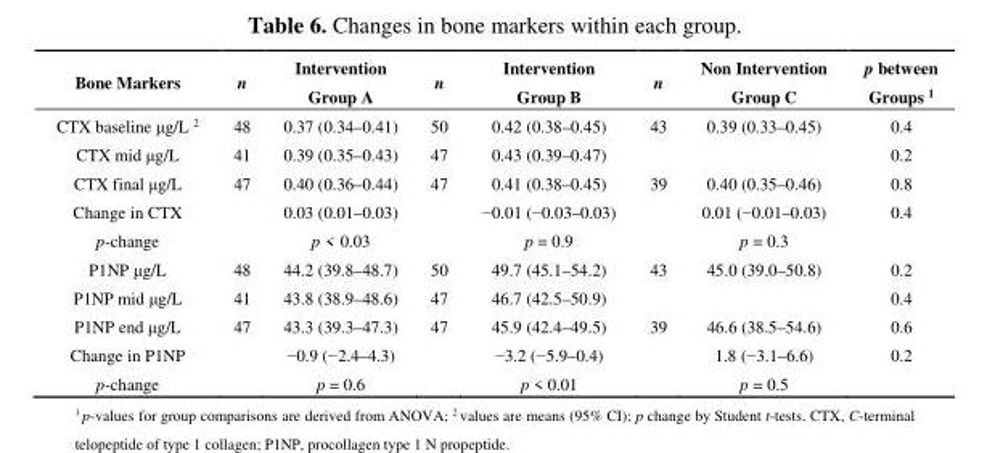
<table><thead><tr><td>Bone Markers</td><td>n</td><td>Intervention Group A</td><td>n</td><td>Intervention Group B</td><td>n</td><td>Non Intervention Group C</td><td>p between Groups <sup>1</sup></td></tr></thead><tbody><tr><td>CTX baseline μg/L <sup>2</sup></td><td>48</td><td>0.37 (0.34–0.41)</td><td>50</td><td>0.42 (0.38–0.45)</td><td>43</td><td>0.39 (0.33–0.45)</td><td>0.4</td></tr><tr><td>CTX mid μg/L</td><td>41</td><td>0.39 (0.35–0.43)</td><td>47</td><td>0.43 (0.39–0.47)</td><td></td><td></td><td>0.2</td></tr><tr><td>CTX final μg/L</td><td>47</td><td>0.40 (0.36–0.44)</td><td>47</td><td>0.41 (0.38–0.45)</td><td>39</td><td>0.40 (0.35–0.46)</td><td>0.8</td></tr><tr><td>Change in CTX</td><td></td><td>0.03 (0.01–0.03)</td><td></td><td>−0.01 (−0.03–0.03)</td><td></td><td>0.01 (−0.01–0.03)</td><td>0.4</td></tr><tr><td>p-change</td><td></td><td>p &lt; 0.03</td><td></td><td>p = 0.9</td><td></td><td>p = 0.3</td><td></td></tr><tr><td>P1NP μg/L</td><td>48</td><td>44.2 (39.8–48.7)</td><td>50</td><td>49.7 (45.1–54.2)</td><td>43</td><td>45.0 (39.0–50.8)</td><td>0.2</td></tr><tr><td>P1NP mid μg/L</td><td>41</td><td>43.8 (38.9–48.6)</td><td>47</td><td>46.7 (42.5–50.9)</td><td></td><td></td><td>0.4</td></tr><tr><td>P1NP end μg/L</td><td>47</td><td>43.3 (39.3–47.3)</td><td>47</td><td>45.9 (42.4–49.5)</td><td>39</td><td>46.6 (38.5–54.6)</td><td>0.6</td></tr><tr><td>Change in P1NP</td><td></td><td>−0.9 (−2.4–4.3)</td><td></td><td>−3.2 (−5.9–0.4)</td><td></td><td>1.8 (−3.1–6.6)</td><td>0.2</td></tr><tr><td>p-change</td><td></td><td>p = 0.6</td><td></td><td>p &lt; 0.01</td><td></td><td>p = 0.5</td><td></td></tr></tbody></table>